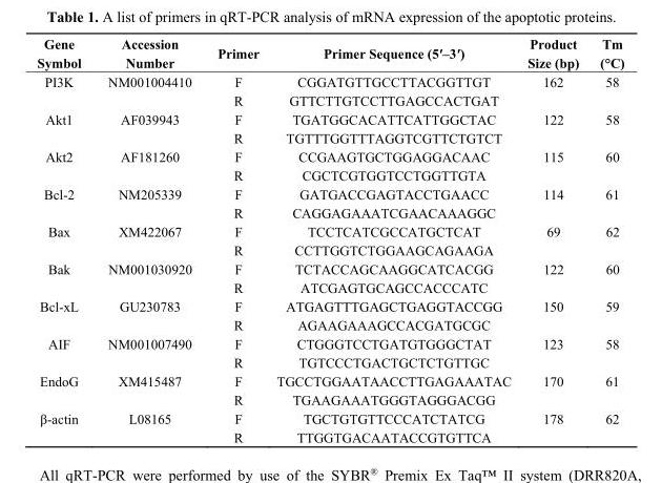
<table><thead><tr><td>Gene Symbol</td><td>Accession Number</td><td>Primer</td><td>Primer Sequence (5ʹ–3ʹ)</td><td>Product Size (bp)</td><td>Tm (°C)</td></tr></thead><tbody><tr><td rowspan="2">PI3K</td><td>NM001004410</td><td>F</td><td>CGGATGTTGCCTTACGGTTGT</td><td>162</td><td>58</td></tr><tr><td></td><td>R</td><td>GTTCTTGTCCTTGAGCCACTGAT</td><td></td><td></td></tr><tr><td rowspan="2">Akt1</td><td>AF039943</td><td>F</td><td>TGATGGCACATTCATTGGCTAC</td><td>122</td><td>58</td></tr><tr><td></td><td>R</td><td>TGTTTGGTTTAGGTCGTTCTGTCT</td><td></td><td></td></tr><tr><td rowspan="2">Akt2</td><td>AF181260</td><td>F</td><td>CCGAAGTGCTGGAGGACAAC</td><td>115</td><td>60</td></tr><tr><td></td><td>R</td><td>CGCTCGTGGTCCTGGTTGTA</td><td></td><td></td></tr><tr><td rowspan="2">Bcl-2</td><td>NM205339</td><td>F</td><td>GATGACCGAGTACCTGAACC</td><td>114</td><td>61</td></tr><tr><td></td><td>R</td><td>CAGGAGAAATCGAACAAAGGC</td><td></td><td></td></tr><tr><td rowspan="2">Bax</td><td>XM422067</td><td>F</td><td>TCCTCATCGCCATGCTCAT</td><td>69</td><td>62</td></tr><tr><td></td><td>R</td><td>CCTTGGTCTGGAAGCAGAAGA</td><td></td><td></td></tr><tr><td rowspan="2">Bak</td><td>NM001030920</td><td>F</td><td>TCTACCAGCAAGGCATCACGG</td><td>122</td><td>60</td></tr><tr><td></td><td>R</td><td>ATCGAGTGCAGCCACCCATC</td><td></td><td></td></tr><tr><td rowspan="2">Bcl-xL</td><td>GU230783</td><td>F</td><td>ATGAGTTTGAGCTGAGGTACCGG</td><td>150</td><td>59</td></tr><tr><td></td><td>R</td><td>AGAAGAAAGCCACGATGCGC</td><td></td><td></td></tr><tr><td rowspan="2">AIF</td><td>NM001007490</td><td>F</td><td>CTGGGTCCTGATGTGGGCTAT</td><td>123</td><td>58</td></tr><tr><td></td><td>R</td><td>TGTCCCTGACTGCTCTGTTGC</td><td></td><td></td></tr><tr><td rowspan="2">EndoG</td><td>XM415487</td><td>F</td><td>TGCCTGGAATAACCTTGAGAAATAC</td><td>170</td><td>61</td></tr><tr><td></td><td>R</td><td>TGAAGAAATGGGTAGGGACGG</td><td></td><td></td></tr><tr><td rowspan="2">β-actin</td><td>L08165</td><td>F</td><td>TGCTGTGTTCCCATCTATCG</td><td>178</td><td>62</td></tr><tr><td></td><td>R</td><td>TTGGTGACAATACCGTGTTCA</td><td></td><td></td></tr></tbody></table>